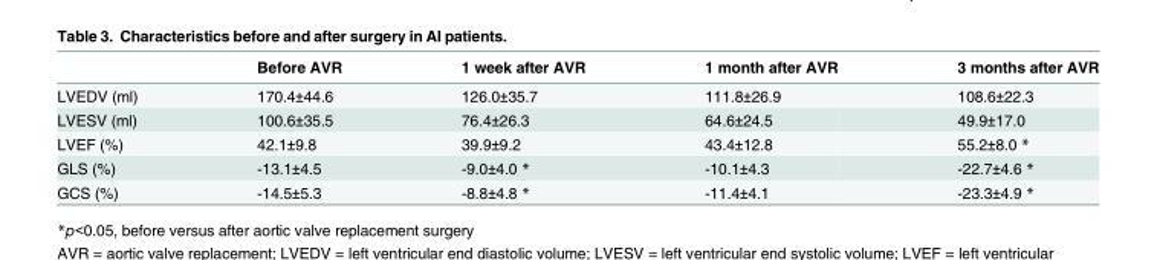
<table><thead><tr><td></td><td>Before AVR</td><td>1 week after AVR</td><td>1 month after AVR</td><td>3 months after AVR</td></tr></thead><tbody><tr><td>LVEDV (ml)</td><td>170.4±44.6</td><td>126.0±35.7</td><td>111.8±26.9</td><td>108.6±22.3</td></tr><tr><td>LVESV (ml)</td><td>100.6±35.5</td><td>76.4±26.3</td><td>64.6±24.5</td><td>49.9±17.0</td></tr><tr><td>LVEF (%)</td><td>42.1±9.8</td><td>39.9±9.2</td><td>43.4±12.8</td><td>55.2±8.0 *</td></tr><tr><td>GLS (%)</td><td>-13.1±4.5</td><td>-9.0±4.0 *</td><td>-10.1±4.3</td><td>-22.7±4.6 *</td></tr><tr><td>GCS (%)</td><td>-14.5±5.3</td><td>-8.8±4.8 *</td><td>-11.4±4.1</td><td>-23.3±4.9 *</td></tr></tbody></table>